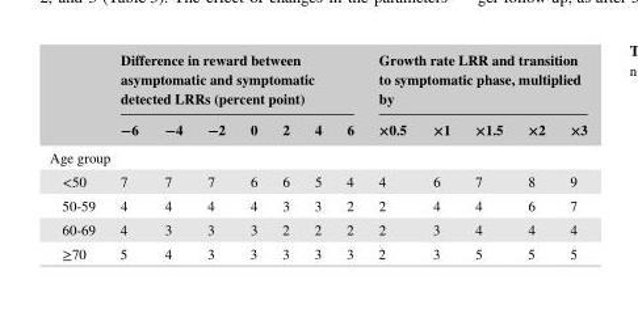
<table><thead><tr><td rowspan="2"></td><td colspan="7">Difference in reward between asymptomatic and symptomatic detected LRRs (percent point)</td><td colspan="5">Growth rate LRR and transition to symptomatic phase, multiplied by</td></tr><tr><td>−6</td><td>−4</td><td>−2</td><td>0</td><td>2</td><td>4</td><td>6</td><td>×0.5</td><td>×1</td><td>×1.5</td><td>×2</td><td>×3</td></tr></thead><tbody><tr><td colspan="13">Age group</td></tr><tr><td>&lt;50</td><td>7</td><td>7</td><td>7</td><td>6</td><td>6</td><td>5</td><td>4</td><td>4</td><td>6</td><td>7</td><td>8</td><td>9</td></tr><tr><td>50- 59</td><td>4</td><td>4</td><td>4</td><td>4</td><td>3</td><td>3</td><td>2</td><td>2</td><td>4</td><td>4</td><td>6</td><td>7</td></tr><tr><td>60- 69</td><td>4</td><td>3</td><td>3</td><td>3</td><td>2</td><td>2</td><td>2</td><td>2</td><td>3</td><td>4</td><td>4</td><td>4</td></tr><tr><td>≥70</td><td>5</td><td>4</td><td>3</td><td>3</td><td>3</td><td>3</td><td>3</td><td>2</td><td>3</td><td>5</td><td>5</td><td>5</td></tr></tbody></table>